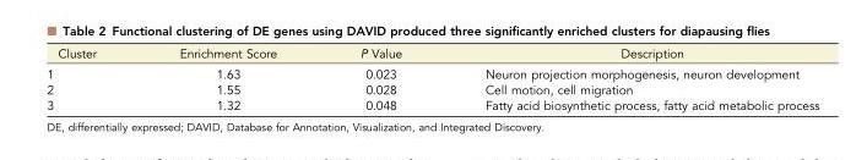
<table><thead><tr><td>Cluster</td><td>Enrichment Score</td><td>P Value</td><td>Description</td></tr></thead><tbody><tr><td>1</td><td>1.63</td><td>0.023</td><td>Neuron projection morphogenesis, neuron development</td></tr><tr><td>2</td><td>1.55</td><td>0.028</td><td>Cell motion, cell migration</td></tr><tr><td>3</td><td>1.32</td><td>0.048</td><td>Fatty acid biosynthetic process, fatty acid metabolic process</td></tr></tbody></table>